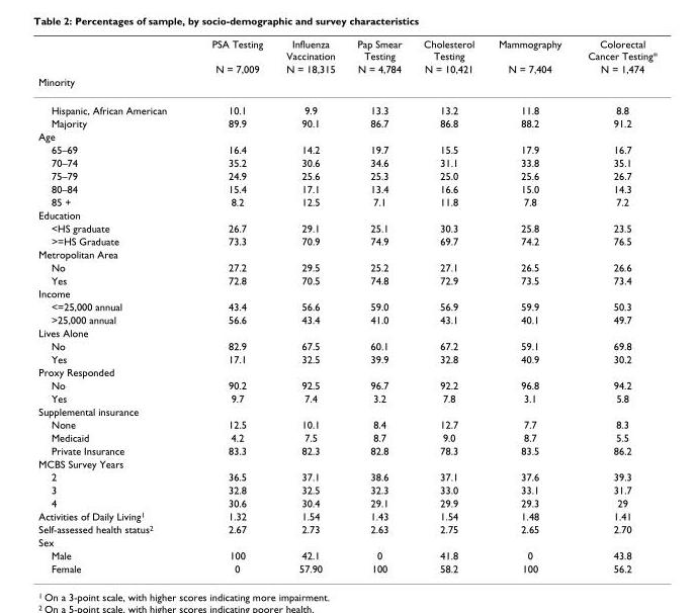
<table><thead><tr><td rowspan="3">Minority</td><td rowspan="3">PSA Testing N = 7,009</td><td rowspan="3">Influenza Vaccination N = 18,315</td><td rowspan="3">Pap Smear Testing N = 4,784</td><td rowspan="3">Cholesterol Testing N = 10,421</td><td rowspan="3">Mammography N = 7,404</td><td rowspan="3">Colorectal Cancer Testing* N = 1,474</td></tr><tr></tr><tr></tr></thead><tbody><tr><td>Hispanic, African American</td><td>10.1</td><td>9.9</td><td>13.3</td><td>13.2</td><td>11.8</td><td>8.8</td></tr><tr><td>Majority</td><td>89.9</td><td>90.1</td><td>86.7</td><td>86.8</td><td>88.2</td><td>91.2</td></tr><tr><td colspan="7">Age</td></tr><tr><td>65–69</td><td>16.4</td><td>14.2</td><td>19.7</td><td>15.5</td><td>17.9</td><td>16.7</td></tr><tr><td>70–74</td><td>35.2</td><td>30.6</td><td>34.6</td><td>31.1</td><td>33.8</td><td>35.1</td></tr><tr><td>75–79</td><td>24.9</td><td>25.6</td><td>25.3</td><td>25.0</td><td>25.6</td><td>26.7</td></tr><tr><td>80–84</td><td>15.4</td><td>17.1</td><td>13.4</td><td>16.6</td><td>15.0</td><td>14.3</td></tr><tr><td>85 +</td><td>8.2</td><td>12.5</td><td>7.1</td><td>11.8</td><td>7.8</td><td>7.2</td></tr><tr><td colspan="7">Education</td></tr><tr><td>&lt;HS graduate</td><td>26.7</td><td>29.1</td><td>25.1</td><td>30.3</td><td>25.8</td><td>23.5</td></tr><tr><td>&gt;=HS Graduate</td><td>73.3</td><td>70.9</td><td>74.9</td><td>69.7</td><td>74.2</td><td>76.5</td></tr><tr><td colspan="7">Metropolitan Area</td></tr><tr><td>No</td><td>27.2</td><td>29.5</td><td>25.2</td><td>27.1</td><td>26.5</td><td>26.6</td></tr><tr><td>Yes</td><td>72.8</td><td>70.5</td><td>74.8</td><td>72.9</td><td>73.5</td><td>73.4</td></tr><tr><td colspan="7">Income</td></tr><tr><td>&lt;=25,000 annual</td><td>43.4</td><td>56.6</td><td>59.0</td><td>56.9</td><td>59.9</td><td>50.3</td></tr><tr><td>&gt;25,000 annual</td><td>56.6</td><td>43.4</td><td>41.0</td><td>43.1</td><td>40.1</td><td>49.7</td></tr><tr><td colspan="7">Lives Alone</td></tr><tr><td>No</td><td>82.9</td><td>67.5</td><td>60.1</td><td>67.2</td><td>59.1</td><td>69.8</td></tr><tr><td>Yes</td><td>17.1</td><td>32.5</td><td>39.9</td><td>32.8</td><td>40.9</td><td>30.2</td></tr><tr><td colspan="7">Proxy Responded</td></tr><tr><td>No</td><td>90.2</td><td>92.5</td><td>96.7</td><td>92.2</td><td>96.8</td><td>94.2</td></tr><tr><td>Yes</td><td>9.7</td><td>7.4</td><td>3.2</td><td>7.8</td><td>3.1</td><td>5.8</td></tr><tr><td colspan="7">Supplemental insurance</td></tr><tr><td>None</td><td>12.5</td><td>10.1</td><td>8.4</td><td>12.7</td><td>7.7</td><td>8.3</td></tr><tr><td>Medicaid</td><td>4.2</td><td>7.5</td><td>8.7</td><td>9.0</td><td>8.7</td><td>5.5</td></tr><tr><td>Private Insurance</td><td>83.3</td><td>82.3</td><td>82.8</td><td>78.3</td><td>83.5</td><td>86.2</td></tr><tr><td colspan="7">MCBS Survey Years</td></tr><tr><td>2</td><td>36.5</td><td>37.1</td><td>38.6</td><td>37.1</td><td>37.6</td><td>39.3</td></tr><tr><td>3</td><td>32.8</td><td>32.5</td><td>32.3</td><td>33.0</td><td>33.1</td><td>31.7</td></tr><tr><td>4</td><td>30.6</td><td>30.4</td><td>29.1</td><td>29.9</td><td>29.3</td><td>29</td></tr><tr><td>Activities of Daily Living1</td><td>1.32</td><td>1.54</td><td>1.43</td><td>1.54</td><td>1.48</td><td>1.41</td></tr><tr><td>Self-assessed health status2</td><td>2.67</td><td>2.73</td><td>2.63</td><td>2.75</td><td>2.65</td><td>2.70</td></tr><tr><td colspan="7">Sex</td></tr><tr><td>Male</td><td>100</td><td>42.1</td><td>0</td><td>41.8</td><td>0</td><td>43.8</td></tr><tr><td>Female</td><td>0</td><td>57.90</td><td>100</td><td>58.2</td><td>100</td><td>56.2</td></tr></tbody></table>